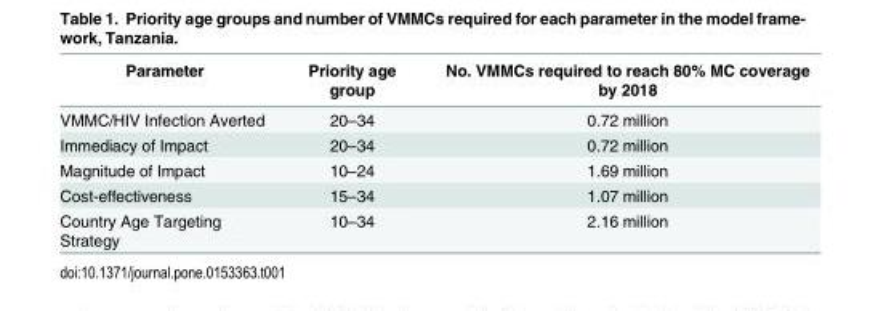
<table><thead><tr><td>Parameter</td><td>Priority age group</td><td>No. VMMCs required to reach 80% MC coverage by 2018</td></tr></thead><tbody><tr><td>VMMC/HIV Infection Averted</td><td>20–34</td><td>0.72 million</td></tr><tr><td>Immediacy of Impact</td><td>20–34</td><td>0.72 million</td></tr><tr><td>Magnitude of Impact</td><td>10–24</td><td>1.69 million</td></tr><tr><td>Cost-effectiveness</td><td>15–34</td><td>1.07 million</td></tr><tr><td>Country Age Targeting Strategy</td><td>10–34</td><td>2.16 million</td></tr></tbody></table>